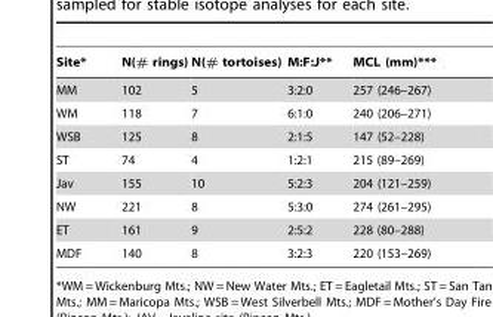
<table><thead><tr><td>Site*</td><td>N(# rings)</td><td>N(# tortoises)</td><td>M:F:J**</td><td>MCL (mm)***</td></tr></thead><tbody><tr><td>MM</td><td>102</td><td>5</td><td>3:2:0</td><td>257 (246–267)</td></tr><tr><td>WM</td><td>118</td><td>7</td><td>6:1:0</td><td>240 (206–271)</td></tr><tr><td>WSB</td><td>125</td><td>8</td><td>2:1:5</td><td>147 (52–228)</td></tr><tr><td>ST</td><td>74</td><td>4</td><td>1:2:1</td><td>215 (89–269)</td></tr><tr><td>Jav</td><td>155</td><td>10</td><td>5:2:3</td><td>204 (121–259)</td></tr><tr><td>NW</td><td>221</td><td>8</td><td>5:3:0</td><td>274 (261–295)</td></tr><tr><td>ET</td><td>161</td><td>9</td><td>2:5:2</td><td>228 (80–288)</td></tr><tr><td>MDF</td><td>140</td><td>8</td><td>3:2:3</td><td>220 (153–269)</td></tr></tbody></table>